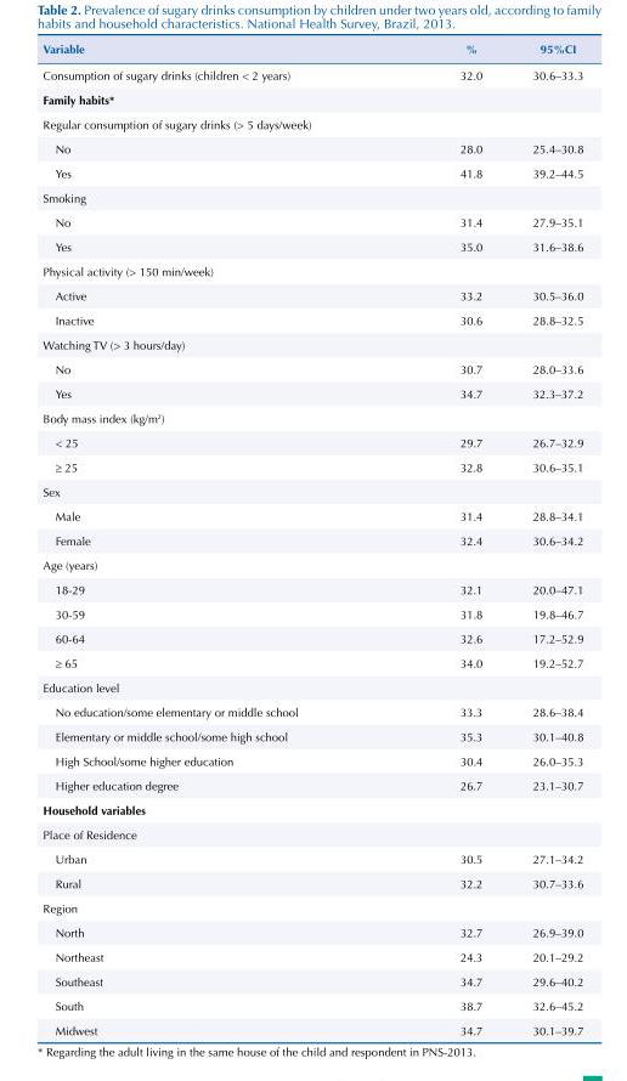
<table><thead><tr><td>Variable</td><td>%</td><td>95%CI</td></tr></thead><tbody><tr><td>Consumption of sugary drinks (children &lt; 2 years)</td><td>32.0</td><td>30.6–33.3</td></tr><tr><td colspan="3">Family habits*</td></tr><tr><td colspan="3">Regular consumption of sugary drinks (&gt; 5 days/week)</td></tr><tr><td>No</td><td>28.0</td><td>25.4–30.8</td></tr><tr><td>Yes</td><td>41.8</td><td>39.2–44.5</td></tr><tr><td colspan="3">Smoking</td></tr><tr><td>No</td><td>31.4</td><td>27.9–35.1</td></tr><tr><td>Yes</td><td>35.0</td><td>31.6–38.6</td></tr><tr><td colspan="3">Physical activity (&gt; 150 min/week)</td></tr><tr><td>Active</td><td>33.2</td><td>30.5–36.0</td></tr><tr><td>Inactive</td><td>30.6</td><td>28.8–32.5</td></tr><tr><td colspan="3">Watching TV (&gt; 3 hours/day)</td></tr><tr><td>No</td><td>30.7</td><td>28.0–33.6</td></tr><tr><td>Yes</td><td>34.7</td><td>32.3–37.2</td></tr><tr><td colspan="3">Body mass index (kg/m<sup>2</sup>)</td></tr><tr><td>&lt; 25</td><td>29.7</td><td>26.7–32.9</td></tr><tr><td>≥ 25</td><td>32.8</td><td>30.6–35.1</td></tr><tr><td colspan="3">Sex</td></tr><tr><td>Male</td><td>31.4</td><td>28.8–34.1</td></tr><tr><td>Female</td><td>32.4</td><td>30.6–34.2</td></tr><tr><td colspan="3">Age (years)</td></tr><tr><td>18-29</td><td>32.1</td><td>20.0–47.1</td></tr><tr><td>30-59</td><td>31.8</td><td>19.8–46.7</td></tr><tr><td>60-64</td><td>32.6</td><td>17.2–52.9</td></tr><tr><td>≥ 65</td><td>34.0</td><td>19.2–52.7</td></tr><tr><td colspan="3">Education level</td></tr><tr><td>No education/some elementary or middle school</td><td>33.3</td><td>28.6–38.4</td></tr><tr><td>Elementary or middle school/some high school</td><td>35.3</td><td>30.1–40.8</td></tr><tr><td>High School/some higher education</td><td>30.4</td><td>26.0–35.3</td></tr><tr><td>Higher education degree</td><td>26.7</td><td>23.1–30.7</td></tr><tr><td colspan="3">Household variables</td></tr><tr><td colspan="3">Place of Residence</td></tr><tr><td>Urban</td><td>30.5</td><td>27.1–34.2</td></tr><tr><td>Rural</td><td>32.2</td><td>30.7–33.6</td></tr><tr><td colspan="3">Region</td></tr><tr><td>North</td><td>32.7</td><td>26.9–39.0</td></tr><tr><td>Northeast</td><td>24.3</td><td>20.1–29.2</td></tr><tr><td>Southeast</td><td>34.7</td><td>29.6–40.2</td></tr><tr><td>South</td><td>38.7</td><td>32.6–45.2</td></tr><tr><td>Midwest</td><td>34.7</td><td>30.1–39.7</td></tr></tbody></table>